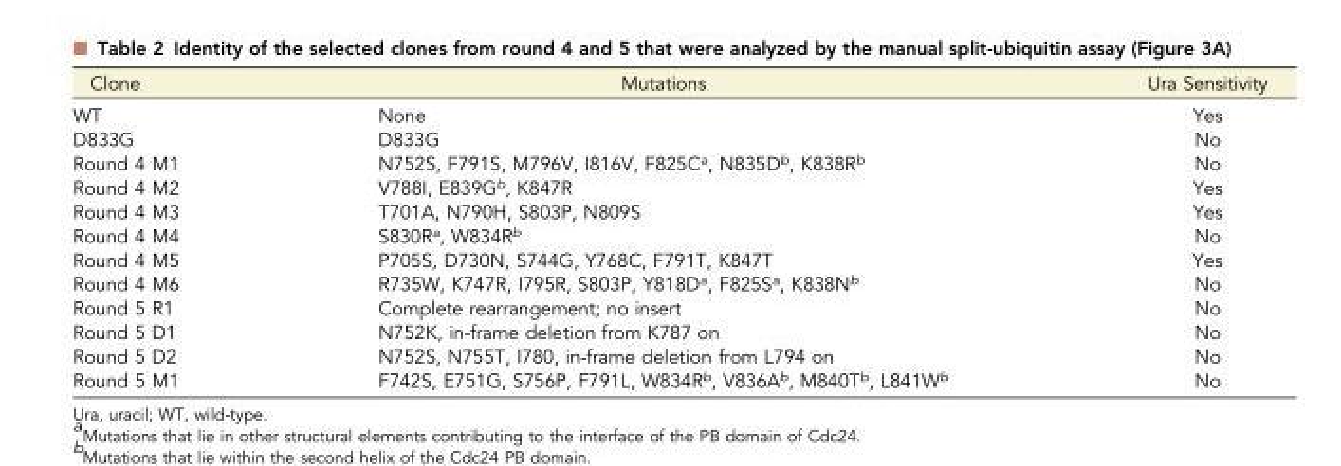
<table><thead><tr><td>Clone</td><td>Mutations</td><td>Ura Sensitivity</td></tr></thead><tbody><tr><td>WT</td><td>None</td><td>Yes</td></tr><tr><td>D833G</td><td>D833G</td><td>No</td></tr><tr><td>Round 4 M1</td><td>N752S, F791S, M796V, I816V, F825C<sup>a</sup>, N835D<sup>b</sup>, K838R<sup>b</sup></td><td>No</td></tr><tr><td>Round 4 M2</td><td>V788I, E839G<sup>b</sup>, K847R</td><td>Yes</td></tr><tr><td>Round 4 M3</td><td>T701A, N790H, S803P, N809S</td><td>Yes</td></tr><tr><td>Round 4 M4</td><td>S830R<sup>a</sup>, W834R<sup>b</sup></td><td>No</td></tr><tr><td>Round 4 M5</td><td>P705S, D730N, S744G, Y768C, F791T, K847T</td><td>Yes</td></tr><tr><td>Round 4 M6</td><td>R735W, K747R, I795R, S803P, Y818D<sup>a</sup>, F825S<sup>a</sup>, K838N<sup>b</sup></td><td>No</td></tr><tr><td>Round 5 R1</td><td>Complete rearrangement; no insert</td><td>No</td></tr><tr><td>Round 5 D1</td><td>N752K, in-frame deletion from K787 on</td><td>No</td></tr><tr><td>Round 5 D2</td><td>N752S, N755T, I780, in-frame deletion from L794 on</td><td>No</td></tr><tr><td>Round 5 M1</td><td>F742S, E751G, S756P, F791L, W834R<sup>b</sup>, V836A<sup>b</sup>, M840T<sup>b</sup>, L841W<sup>b</sup></td><td>No</td></tr></tbody></table>